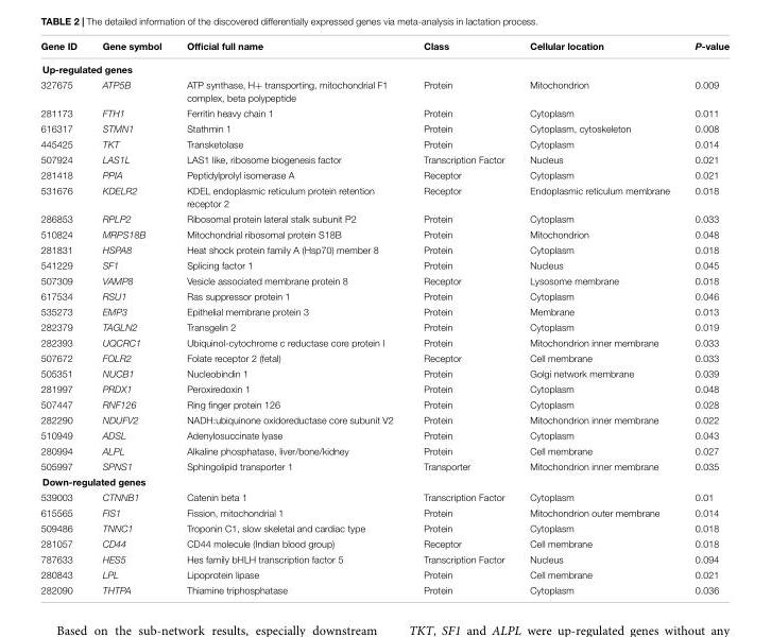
<table><thead><tr><td>Gene ID</td><td>Gene symbol</td><td>Official full name</td><td>Class</td><td>Cellular location</td><td>P-value</td></tr></thead><tbody><tr><td colspan="6">Up-regulated genes</td></tr><tr><td>327675</td><td>ATP5B</td><td>ATP synthase, H+ transporting, mitochondrial F1 complex, beta polypeptide</td><td>Protein</td><td>Mitochondrion</td><td>0.009</td></tr><tr><td>281173</td><td>FTH1</td><td>Ferritin heavy chain 1</td><td>Protein</td><td>Cytoplasm</td><td>0.011</td></tr><tr><td>616317</td><td>STMN1</td><td>Stathmin 1</td><td>Protein</td><td>Cytoplasm, cytoskeleton</td><td>0.008</td></tr><tr><td>445425</td><td>TKT</td><td>Transketolase</td><td>Protein</td><td>Cytoplasm</td><td>0.014</td></tr><tr><td>507924</td><td>LAS1L</td><td>LAS1 like, ribosome biogenesis factor</td><td>Transcription Factor</td><td>Nucleus</td><td>0.021</td></tr><tr><td>281418</td><td>PPIA</td><td>Peptidylprolyl isomerase A</td><td>Receptor</td><td>Cytoplasm</td><td>0.021</td></tr><tr><td>531676</td><td>KDELR2</td><td>KDEL endoplasmic reticulum protein retention receptor 2</td><td>Receptor</td><td>Endoplasmic reticulum membrane</td><td>0.018</td></tr><tr><td>286853</td><td>RPLP2</td><td>Ribosomal protein lateral stalk subunit P2</td><td>Protein</td><td>Cytoplasm</td><td>0.033</td></tr><tr><td>510824</td><td>MRPS18B</td><td>Mitochondrial ribosomal protein S18B</td><td>Protein</td><td>Mitochondrion</td><td>0.048</td></tr><tr><td>281831</td><td>HSPA8</td><td>Heat shock protein family A (Hsp70) member 8</td><td>Protein</td><td>Cytoplasm</td><td>0.018</td></tr><tr><td>541229</td><td>SF1</td><td>Splicing factor 1</td><td>Protein</td><td>Nucleus</td><td>0.045</td></tr><tr><td>507309</td><td>VAMP8</td><td>Vesicle associated membrane protein 8</td><td>Receptor</td><td>Lysosome membrane</td><td>0.018</td></tr><tr><td>617534</td><td>RSU1</td><td>Ras suppressor protein 1</td><td>Protein</td><td>Cytoplasm</td><td>0.046</td></tr><tr><td>535273</td><td>EMP3</td><td>Epithelial membrane protein 3</td><td>Protein</td><td>Membrane</td><td>0.013</td></tr><tr><td>282379</td><td>TAGLN2</td><td>Transgelin 2</td><td>Protein</td><td>Cytoplasm</td><td>0.019</td></tr><tr><td>282393</td><td>UQCRC1</td><td>Ubiquinol-cytochrome c reductase core protein I</td><td>Protein</td><td>Mitochondrion inner membrane</td><td>0.033</td></tr><tr><td>507672</td><td>FOLR2</td><td>Folate receptor 2 (fetal)</td><td>Receptor</td><td>Cell membrane</td><td>0.033</td></tr><tr><td>505351</td><td>NUCB1</td><td>Nucleobindin 1</td><td>Protein</td><td>Golgi network membrane</td><td>0.039</td></tr><tr><td>281997</td><td>PRDX1</td><td>Peroxiredoxin 1</td><td>Protein</td><td>Cytoplasm</td><td>0.048</td></tr><tr><td>507447</td><td>RNF126</td><td>Ring finger protein 126</td><td>Protein</td><td>Cytoplasm</td><td>0.028</td></tr><tr><td>282290</td><td>NDUFV2</td><td>NADH:ubiquinone oxidoreductase core subunit V2</td><td>Protein</td><td>Mitochondrion inner membrane</td><td>0.022</td></tr><tr><td>510949</td><td>ADSL</td><td>Adenylosuccinate lyase</td><td>Protein</td><td>Cytoplasm</td><td>0.043</td></tr><tr><td>280994</td><td>ALPL</td><td>Alkaline phosphatase, liver/bone/kidney</td><td>Protein</td><td>Cell membrane</td><td>0.027</td></tr><tr><td>505997</td><td>SPNS1</td><td>Sphingolipid transporter 1</td><td>Transporter</td><td>Mitochondrion inner membrane</td><td>0.035</td></tr><tr><td colspan="6">Down-regulated genes</td></tr><tr><td>539003</td><td>CTNNB1</td><td>Catenin beta 1</td><td>Transcription Factor</td><td>Cytoplasm</td><td>0.01</td></tr><tr><td>615565</td><td>FIS1</td><td>Fission, mitochondrial 1</td><td>Protein</td><td>Mitochondrion outer membrane</td><td>0.014</td></tr><tr><td>509486</td><td>TNNC1</td><td>Troponin C1, slow skeletal and cardiac type</td><td>Protein</td><td>Cytoplasm</td><td>0.018</td></tr><tr><td>281057</td><td>CD44</td><td>CD44 molecule (Indian blood group)</td><td>Receptor</td><td>Cell membrane</td><td>0.018</td></tr><tr><td>787633</td><td>HES5</td><td>Hes family bHLH transcription factor 5</td><td>Transcription Factor</td><td>Nucleus</td><td>0.094</td></tr><tr><td>280843</td><td>LPL</td><td>Lipoprotein lipase</td><td>Protein</td><td>Cell membrane</td><td>0.021</td></tr><tr><td>282090</td><td>THTPA</td><td>Thiamine triphosphatase</td><td>Protein</td><td>Cytoplasm</td><td>0.036</td></tr></tbody></table>